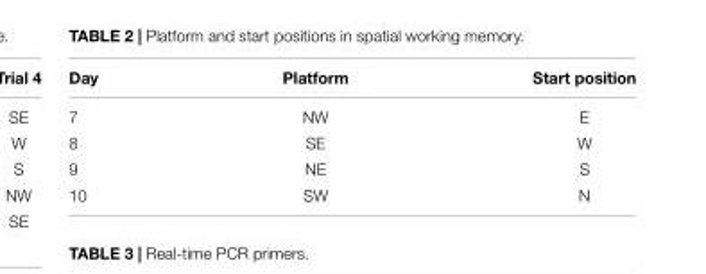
<table><thead><tr><td>Day</td><td>Platform</td><td>Start position</td></tr></thead><tbody><tr><td>7</td><td>NW</td><td>E</td></tr><tr><td>8</td><td>SE</td><td>W</td></tr><tr><td>9</td><td>NE</td><td>S</td></tr><tr><td>10</td><td>SW</td><td>N</td></tr></tbody></table>